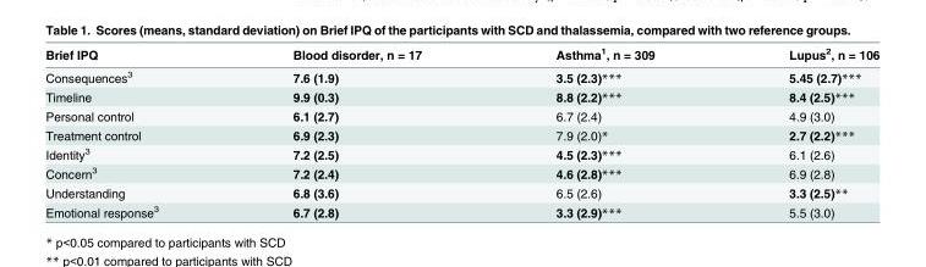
<table><thead><tr><td>Brief IPQ</td><td>Blood disorder, n = 17</td><td>Asthma<sup>1</sup>, n = 309</td><td>Lupus<sup>2</sup>, n = 106</td></tr></thead><tbody><tr><td>Consequences<sup>3</sup></td><td>7.6 (1.9)</td><td>3.5 (2.3)***</td><td>5.45 (2.7)***</td></tr><tr><td>Timeline</td><td>9.9 (0.3)</td><td>8.8 (2.2)***</td><td>8.4 (2.5)***</td></tr><tr><td>Personal control</td><td>6.1 (2.7)</td><td>6.7 (2.4)</td><td>4.9 (3.0)</td></tr><tr><td>Treatment control</td><td>6.9 (2.3)</td><td>7.9 (2.0)*</td><td>2.7 (2.2)***</td></tr><tr><td>Identity<sup>3</sup></td><td>7.2 (2.5)</td><td>4.5 (2.3)***</td><td>6.1 (2.6)</td></tr><tr><td>Concern<sup>3</sup></td><td>7.2 (2.4)</td><td>4.6 (2.8)***</td><td>6.9 (2.8)</td></tr><tr><td>Understanding</td><td>6.8 (3.6)</td><td>6.5 (2.6)</td><td>3.3 (2.5)**</td></tr><tr><td>Emotional response<sup>3</sup></td><td>6.7 (2.8)</td><td>3.3 (2.9)***</td><td>5.5 (3.0)</td></tr></tbody></table>